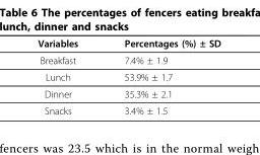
<table><thead><tr><td>Variables</td><td>Percentages (%) ± SD</td></tr></thead><tbody><tr><td>Breakfast</td><td>7.4% ± 1.9</td></tr><tr><td>Lunch</td><td>53.9% ± 1.7</td></tr><tr><td>Dinner</td><td>35.3% ± 2.1</td></tr><tr><td>Snacks</td><td>3.4% ± 1.5</td></tr></tbody></table>